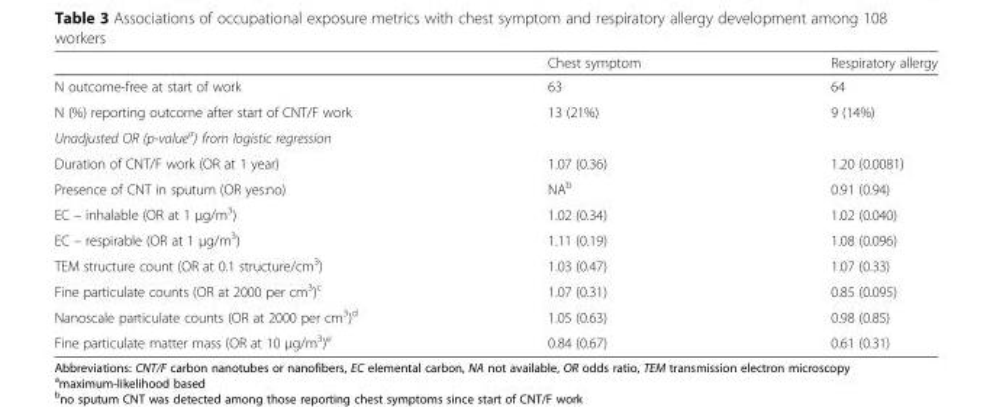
<table><thead><tr><td></td><td>Chest symptom</td><td>Respiratory allergy</td></tr></thead><tbody><tr><td>N outcome-free at start of work</td><td>63</td><td>64</td></tr><tr><td>N (%) reporting outcome after start of CNT/F work</td><td>13 (21%)</td><td>9 (14%)</td></tr><tr><td colspan="3">Unadjusted OR (p-value<sup>a</sup>) from logistic regression</td></tr><tr><td>Duration of CNT/F work (OR at 1 year)</td><td>1.07 (0.36)</td><td>1.20 (0.0081)</td></tr><tr><td>Presence of CNT in sputum (OR yes:no)</td><td>NA<sup>b</sup></td><td>0.91 (0.94)</td></tr><tr><td>EC – inhalable (OR at 1 μg/m<sup>3</sup>)</td><td>1.02 (0.34)</td><td>1.02 (0.040)</td></tr><tr><td>EC – respirable (OR at 1 μg/m<sup>3</sup>)</td><td>1.11 (0.19)</td><td>1.08 (0.096)</td></tr><tr><td>TEM structure count (OR at 0.1 structure/cm<sup>3</sup>)</td><td>1.03 (0.47)</td><td>1.07 (0.33)</td></tr><tr><td>Fine particulate counts (OR at 2000 per cm<sup>3</sup>)<sup>c</sup></td><td>1.07 (0.31)</td><td>0.85 (0.095)</td></tr><tr><td>Nanoscale particulate counts (OR at 2000 per cm<sup>3</sup>)<sup>d</sup></td><td>1.05 (0.63)</td><td>0.98 (0.85)</td></tr><tr><td>Fine particulate matter mass (OR at 10 μg/m<sup>3</sup>)<sup>e</sup></td><td>0.84 (0.67)</td><td>0.61 (0.31)</td></tr></tbody></table>